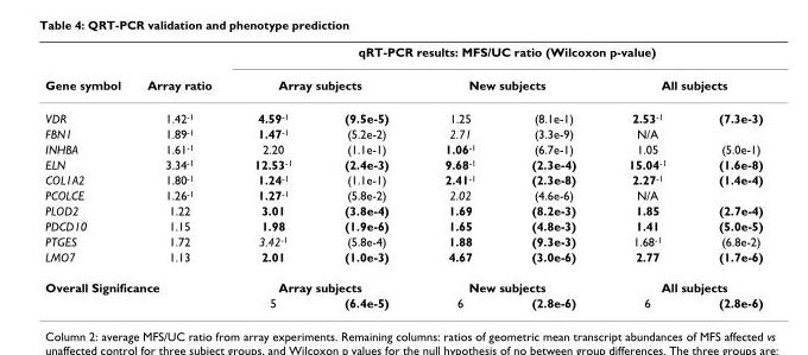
<table><thead><tr><td rowspan="3">Gene symbol VDR</td><td rowspan="3">Array ratio 1.42<sup>-1</sup></td><td colspan="6">qRT-PCR results: MFS/UC ratio (Wilcoxon p-value)</td></tr><tr><td colspan="2">Array subjects</td><td colspan="2">New subjects</td><td colspan="2">All subjects</td></tr><tr><td>4.59<sup>-1</sup></td><td>(9.5e-5)</td><td>1.25</td><td>(8.1e-1)</td><td>2.53<sup>-1</sup></td><td>(7.3e-3)</td></tr></thead><tbody><tr><td>FBN1</td><td>1.89<sup>-1</sup></td><td>1.47<sup>-1</sup></td><td>(5.2e-2)</td><td>2.71</td><td>(3.3e-9)</td><td>N/A</td><td></td></tr><tr><td>INHBA</td><td>1.61<sup>-1</sup></td><td>2.20</td><td>(1.1e-1)</td><td>1.06<sup>-1</sup></td><td>(6.7e-1)</td><td>1.05</td><td>(5.0e-1)</td></tr><tr><td>ELN</td><td>3.34<sup>-1</sup></td><td>12.53<sup>-1</sup></td><td>(2.4e-3)</td><td>9.68<sup>-1</sup></td><td>(2.3e-4)</td><td>15.04<sup>-1</sup></td><td>(1.6e-8)</td></tr><tr><td>COL1A2</td><td>1.80<sup>-1</sup></td><td>1.24<sup>-1</sup></td><td>(1.1e-1)</td><td>2.41<sup>-1</sup></td><td>(2.3e-8)</td><td>2.27<sup>-1</sup></td><td>(1.4e-4)</td></tr><tr><td>PCOLCE</td><td>1.26<sup>-1</sup></td><td>1.27<sup>-1</sup></td><td>(5.8e-2)</td><td>2.02</td><td>(4.6e-6)</td><td>N/A</td><td></td></tr><tr><td>PLOD2</td><td>1.22</td><td>3.01</td><td>(3.8e-4)</td><td>1.69</td><td>(8.2e-3)</td><td>1.85</td><td>(2.7e-4)</td></tr><tr><td>PDCD10</td><td>1.15</td><td>1.98</td><td>(1.9e-6)</td><td>1.65</td><td>(4.8e-3)</td><td>1.41</td><td>(5.0e-5)</td></tr><tr><td>PTGES</td><td>1.72</td><td>3.42<sup>-1</sup></td><td>(5.8e-4)</td><td>1.88</td><td>(9.3e-3)</td><td>1.68<sup>-1</sup></td><td>(6.8e-2)</td></tr><tr><td>LMO7</td><td>1.13</td><td>2.01</td><td>(1.0e-3)</td><td>4.67</td><td>(3.0e-6)</td><td>2.77</td><td>(1.7e-6)</td></tr><tr><td colspan="2">Overall Significance</td><td colspan="2">Array subjects</td><td colspan="2">New subjects</td><td colspan="2">All subjects</td></tr><tr><td></td><td></td><td>5</td><td>(6.4e-5)</td><td>6</td><td>(2.8e-6)</td><td>6</td><td>(2.8e-6)</td></tr></tbody></table>